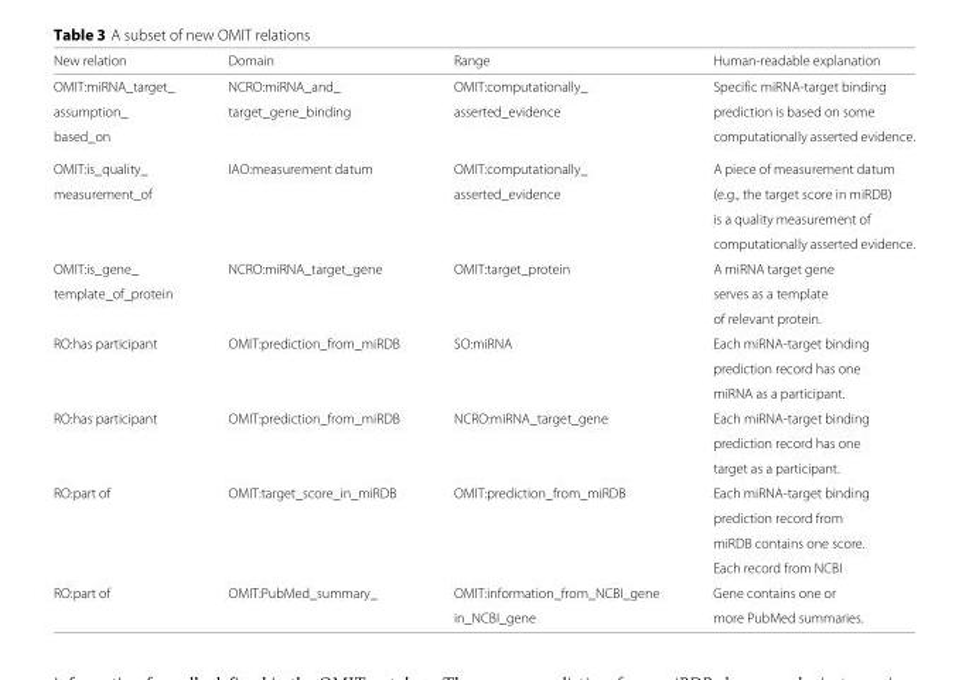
<table><thead><tr><td>New relation</td><td>Domain</td><td>Range</td><td>Human-readable explanation</td></tr></thead><tbody><tr><td>OMIT:miRNA_target_</td><td>NCRO:miRNA_and_</td><td>OMIT:computationally_</td><td>Specific miRNA-target binding</td></tr><tr><td>assumption_</td><td>target_gene_binding</td><td>asserted_evidence</td><td>prediction is based on some</td></tr><tr><td>based_on</td><td></td><td></td><td>computationally asserted evidence.</td></tr><tr><td>OMIT:is_quality_</td><td>IAO:measurement datum</td><td>OMIT:computationally_</td><td>A piece of measurement datum</td></tr><tr><td rowspan="3">measurement_of</td><td></td><td>asserted_evidence</td><td>(e.g., the target score in miRDB)</td></tr><tr><td></td><td></td><td>is a quality measurement of</td></tr><tr><td></td><td></td><td>computationally asserted evidence.</td></tr><tr><td>OMIT:is_gene_</td><td>NCRO:miRNA_target_gene</td><td>OMIT:target_protein</td><td>A miRNA target gene</td></tr><tr><td rowspan="2">template_of_protein</td><td></td><td></td><td>serves as a template</td></tr><tr><td></td><td></td><td>of relevant protein.</td></tr><tr><td rowspan="3">RO:has participant</td><td>OMIT:prediction_from_miRDB</td><td>SO:miRNA</td><td>Each miRNA-target binding</td></tr><tr><td></td><td></td><td>prediction record has one</td></tr><tr><td></td><td></td><td>miRNA as a participant.</td></tr><tr><td rowspan="3">RO:has participant</td><td>OMIT:prediction_from_miRDB</td><td>NCRO:miRNA_target_gene</td><td>Each miRNA-target binding</td></tr><tr><td></td><td></td><td>prediction record has one</td></tr><tr><td></td><td></td><td>target as a participant.</td></tr><tr><td rowspan="4">RO:part of</td><td>OMIT:target_score_in_miRDB</td><td>OMIT:prediction_from_miRDB</td><td>Each miRNA-target binding</td></tr><tr><td></td><td></td><td>prediction record from</td></tr><tr><td></td><td></td><td>miRDB contains one score.</td></tr><tr><td></td><td></td><td>Each record from NCBI</td></tr><tr><td rowspan="2">RO:part of</td><td>OMIT:PubMed_summary_</td><td>OMIT:information_from_NCBI_gene</td><td>Gene contains one or</td></tr><tr><td></td><td>in_NCBI_gene</td><td>more PubMed summaries.</td></tr></tbody></table>